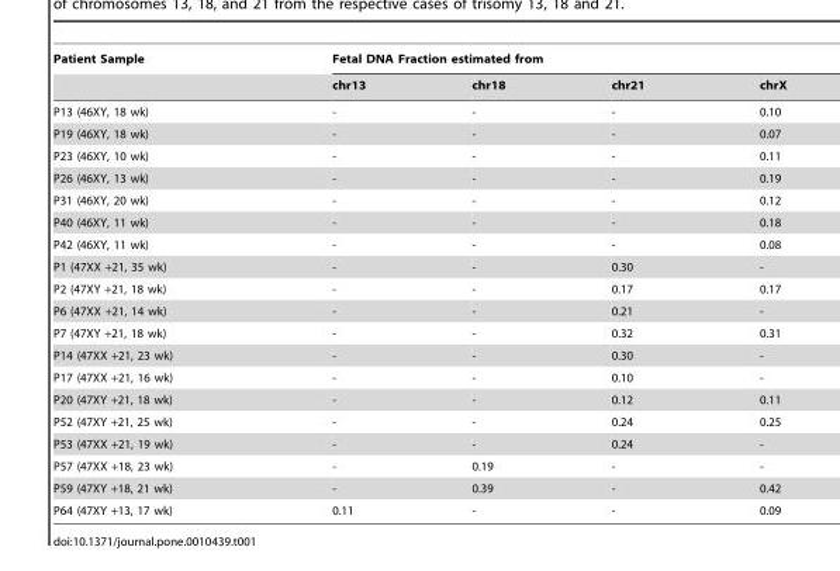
<table><thead><tr><td rowspan="2">Patient Sample</td><td colspan="4">Fetal DNA Fraction estimated from</td></tr><tr><td>chr13</td><td>chr18</td><td>chr21</td><td>chrX</td></tr></thead><tbody><tr><td>P13 (46XY, 18 wk)</td><td>-</td><td>-</td><td>-</td><td>0.10</td></tr><tr><td>P19 (46XY, 18 wk)</td><td>-</td><td>-</td><td>-</td><td>0.07</td></tr><tr><td>P23 (46XY, 10 wk)</td><td>-</td><td>-</td><td>-</td><td>0.11</td></tr><tr><td>P26 (46XY, 13 wk)</td><td>-</td><td>-</td><td>-</td><td>0.19</td></tr><tr><td>P31 (46XY, 20 wk)</td><td>-</td><td>-</td><td>-</td><td>0.12</td></tr><tr><td>P40 (46XY, 11 wk)</td><td>-</td><td>-</td><td>-</td><td>0.18</td></tr><tr><td>P42 (46XY, 11 wk)</td><td>-</td><td>-</td><td>-</td><td>0.08</td></tr><tr><td>P1 (47XX +21, 35 wk)</td><td>-</td><td>-</td><td>0.30</td><td>-</td></tr><tr><td>P2 (47XY +21, 18 wk)</td><td>-</td><td>-</td><td>0.17</td><td>0.17</td></tr><tr><td>P6 (47XX +21, 14 wk)</td><td>-</td><td>-</td><td>0.21</td><td>-</td></tr><tr><td>P7 (47XY +21, 18 wk)</td><td>-</td><td>-</td><td>0.32</td><td>0.31</td></tr><tr><td>P14 (47XX +21, 23 wk)</td><td>-</td><td>-</td><td>0.30</td><td>-</td></tr><tr><td>P17 (47XX +21, 16 wk)</td><td>-</td><td>-</td><td>0.10</td><td>-</td></tr><tr><td>P20 (47XY +21, 18 wk)</td><td>-</td><td>-</td><td>0.12</td><td>0.11</td></tr><tr><td>P52 (47XY +21, 25 wk)</td><td>-</td><td>-</td><td>0.24</td><td>0.25</td></tr><tr><td>P53 (47XX +21, 19 wk)</td><td>-</td><td>-</td><td>0.24</td><td>-</td></tr><tr><td>P57 (47XX +18, 23 wk)</td><td>-</td><td>0.19</td><td>-</td><td>-</td></tr><tr><td>P59 (47XY +18, 21 wk)</td><td>-</td><td>0.39</td><td>-</td><td>0.42</td></tr><tr><td>P64 (47XY +13, 17 wk)</td><td>0.11</td><td>-</td><td>-</td><td>0.09</td></tr></tbody></table>